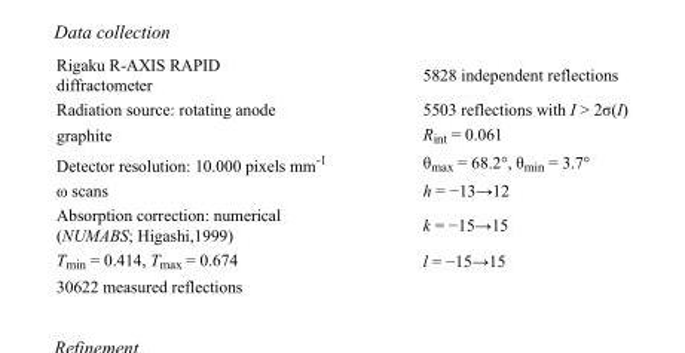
<table><tbody><tr><td>Rigaku R-AXIS RAPID diffractometer</td><td>5828 independent reflections</td></tr><tr><td>Radiation source: rotating anode</td><td>5503 reflections with I &gt; 2σ(I)</td></tr><tr><td>graphite</td><td>R<sub>int</sub> = 0.061</td></tr><tr><td>Detector resolution: 10.000 pixels mm<sup>-1</sup></td><td>θ<sub>max</sub> = 68.2°, θ<sub>min</sub> = 3.7°</td></tr><tr><td>ω scans</td><td>h = −13→12</td></tr><tr><td>Absorption correction: numerical (NUMABS; Higashi,1999)</td><td>k = −15→15</td></tr><tr><td>T<sub>min</sub> = 0.414, T<sub>max</sub> = 0.674</td><td>l = −15→15</td></tr><tr><td>30622 measured reflections</td><td></td></tr></tbody></table>